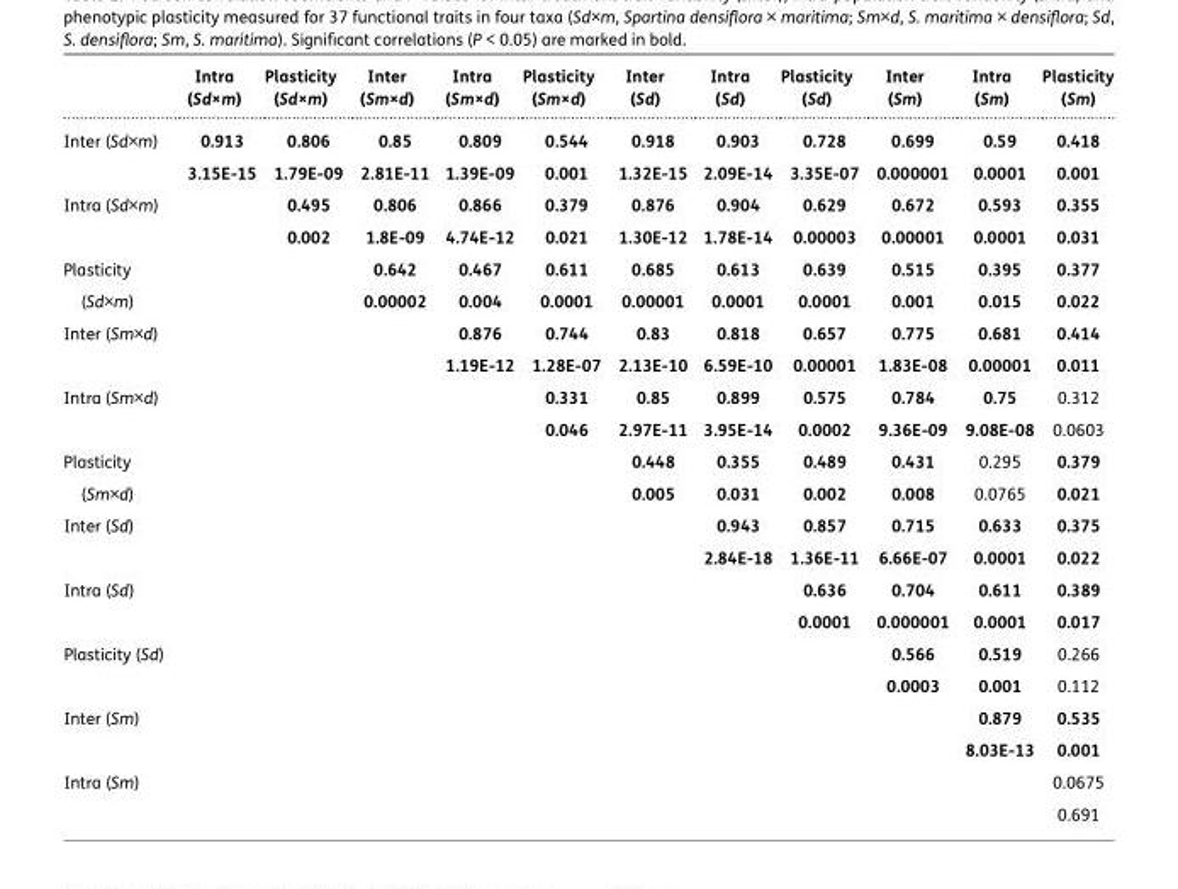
<table><thead><tr><td></td><td>Intra (Sd×m)</td><td>Plasticity (Sd×m)</td><td>Inter (Sm×d)</td><td>Intra (Sm×d)</td><td>Plasticity (Sm×d)</td><td>Inter (Sd)</td><td>Intra (Sd)</td><td>Plasticity (Sd)</td><td>Inter (Sm)</td><td>Intra (Sm)</td><td>Plasticity (Sm)</td></tr></thead><tbody><tr><td rowspan="2">Inter (Sd×m)</td><td>0.913</td><td>0.806</td><td>0.85</td><td>0.809</td><td>0.544</td><td>0.918</td><td>0.903</td><td>0.728</td><td>0.699</td><td>0.59</td><td>0.418</td></tr><tr><td>3.15E-15</td><td>1.79E-09</td><td>2.81E-11</td><td>1.39E-09</td><td>0.001</td><td>1.32E-15</td><td>2.09E-14</td><td>3.35E-07</td><td>0.000001</td><td>0.0001</td><td>0.001</td></tr><tr><td rowspan="2">Intra (Sd×m)</td><td></td><td>0.495</td><td>0.806</td><td>0.866</td><td>0.379</td><td>0.876</td><td>0.904</td><td>0.629</td><td>0.672</td><td>0.593</td><td>0.355</td></tr><tr><td></td><td>0.002</td><td>1.8E-09</td><td>4.74E-12</td><td>0.021</td><td>1.30E-12</td><td>1.78E-14</td><td>0.00003</td><td>0.00001</td><td>0.0001</td><td>0.031</td></tr><tr><td rowspan="2">Plasticity (Sd×m)</td><td></td><td></td><td>0.642</td><td>0.467</td><td>0.611</td><td>0.685</td><td>0.613</td><td>0.639</td><td>0.515</td><td>0.395</td><td>0.377</td></tr><tr><td></td><td></td><td>0.00002</td><td>0.004</td><td>0.0001</td><td>0.00001</td><td>0.0001</td><td>0.0001</td><td>0.001</td><td>0.015</td><td>0.022</td></tr><tr><td rowspan="2">Inter (Sm×d)</td><td></td><td></td><td></td><td>0.876</td><td>0.744</td><td>0.83</td><td>0.818</td><td>0.657</td><td>0.775</td><td>0.681</td><td>0.414</td></tr><tr><td></td><td></td><td></td><td>1.19E-12</td><td>1.28E-07</td><td>2.13E-10</td><td>6.59E-10</td><td>0.00001</td><td>1.83E-08</td><td>0.00001</td><td>0.011</td></tr><tr><td rowspan="2">Intra (Sm×d)</td><td></td><td></td><td></td><td></td><td>0.331</td><td>0.85</td><td>0.899</td><td>0.575</td><td>0.784</td><td>0.75</td><td>0.312</td></tr><tr><td></td><td></td><td></td><td></td><td>0.046</td><td>2.97E-11</td><td>3.95E-14</td><td>0.0002</td><td>9.36E-09</td><td>9.08E-08</td><td>0.0603</td></tr><tr><td rowspan="2">Plasticity (Sm×d)</td><td></td><td></td><td></td><td></td><td></td><td>0.448</td><td>0.355</td><td>0.489</td><td>0.431</td><td>0.295</td><td>0.379</td></tr><tr><td></td><td></td><td></td><td></td><td></td><td>0.005</td><td>0.031</td><td>0.002</td><td>0.008</td><td>0.0765</td><td>0.021</td></tr><tr><td rowspan="2">Inter (Sd)</td><td></td><td></td><td></td><td></td><td></td><td></td><td>0.943</td><td>0.857</td><td>0.715</td><td>0.633</td><td>0.375</td></tr><tr><td></td><td></td><td></td><td></td><td></td><td></td><td>2.84E-18</td><td>1.36E-11</td><td>6.66E-07</td><td>0.0001</td><td>0.022</td></tr><tr><td rowspan="2">Intra (Sd)</td><td></td><td></td><td></td><td></td><td></td><td></td><td></td><td>0.636</td><td>0.704</td><td>0.611</td><td>0.389</td></tr><tr><td></td><td></td><td></td><td></td><td></td><td></td><td></td><td>0.0001</td><td>0.000001</td><td>0.0001</td><td>0.017</td></tr><tr><td rowspan="2">Plasticity (Sd)</td><td></td><td></td><td></td><td></td><td></td><td></td><td></td><td></td><td>0.566</td><td>0.519</td><td>0.266</td></tr><tr><td></td><td></td><td></td><td></td><td></td><td></td><td></td><td></td><td>0.0003</td><td>0.001</td><td>0.112</td></tr><tr><td rowspan="2">Inter (Sm)</td><td></td><td></td><td></td><td></td><td></td><td></td><td></td><td></td><td></td><td>0.879</td><td>0.535</td></tr><tr><td></td><td></td><td></td><td></td><td></td><td></td><td></td><td></td><td></td><td>8.03E-13</td><td>0.001</td></tr><tr><td rowspan="2">Intra (Sm)</td><td></td><td></td><td></td><td></td><td></td><td></td><td></td><td></td><td></td><td></td><td>0.0675</td></tr><tr><td></td><td></td><td></td><td></td><td></td><td></td><td></td><td></td><td></td><td></td><td>0.691</td></tr></tbody></table>